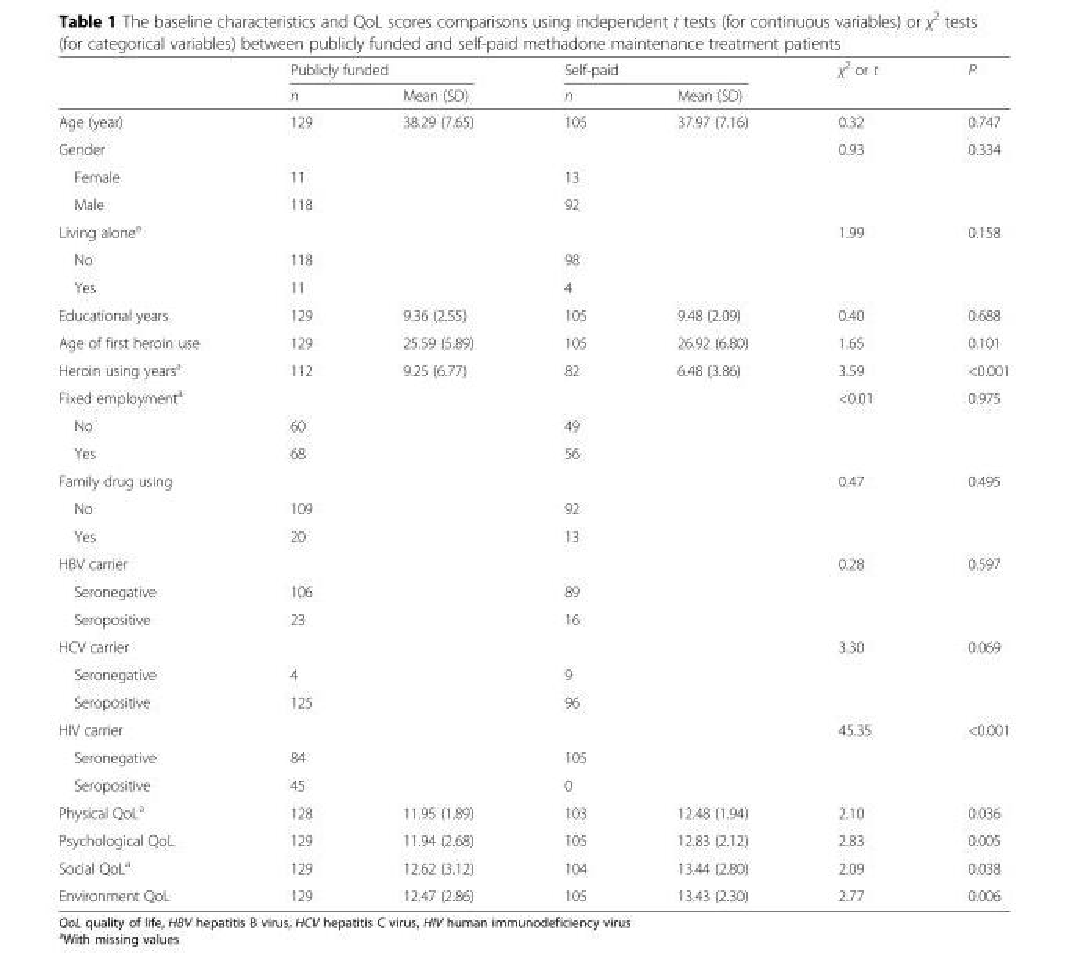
<table><thead><tr><td rowspan="2"></td><td colspan="2">Publicly funded</td><td colspan="2">Self-paid</td><td rowspan="2">χ<sup>2</sup> or t</td><td rowspan="2">P</td></tr><tr><td>n</td><td>Mean (SD)</td><td>n</td><td>Mean (SD)</td></tr></thead><tbody><tr><td>Age (year)</td><td>129</td><td>38.29 (7.65)</td><td>105</td><td>37.97 (7.16)</td><td>0.32</td><td>0.747</td></tr><tr><td>Gender</td><td></td><td></td><td></td><td></td><td>0.93</td><td>0.334</td></tr><tr><td>Female</td><td>11</td><td></td><td>13</td><td></td><td></td><td></td></tr><tr><td>Male</td><td>118</td><td></td><td>92</td><td></td><td></td><td></td></tr><tr><td>Living alone<sup>a</sup></td><td></td><td></td><td></td><td></td><td>1.99</td><td>0.158</td></tr><tr><td>No</td><td>118</td><td></td><td>98</td><td></td><td></td><td></td></tr><tr><td>Yes</td><td>11</td><td></td><td>4</td><td></td><td></td><td></td></tr><tr><td>Educational years</td><td>129</td><td>9.36 (2.55)</td><td>105</td><td>9.48 (2.09)</td><td>0.40</td><td>0.688</td></tr><tr><td>Age of first heroin use</td><td>129</td><td>25.59 (5.89)</td><td>105</td><td>26.92 (6.80)</td><td>1.65</td><td>0.101</td></tr><tr><td>Heroin using years<sup>a</sup></td><td>112</td><td>9.25 (6.77)</td><td>82</td><td>6.48 (3.86)</td><td>3.59</td><td>&lt;0.001</td></tr><tr><td>Fixed employment<sup>a</sup></td><td></td><td></td><td></td><td></td><td>&lt;0.01</td><td>0.975</td></tr><tr><td>No</td><td>60</td><td></td><td>49</td><td></td><td></td><td></td></tr><tr><td>Yes</td><td>68</td><td></td><td>56</td><td></td><td></td><td></td></tr><tr><td>Family drug using</td><td></td><td></td><td></td><td></td><td>0.47</td><td>0.495</td></tr><tr><td>No</td><td>109</td><td></td><td>92</td><td></td><td></td><td></td></tr><tr><td>Yes</td><td>20</td><td></td><td>13</td><td></td><td></td><td></td></tr><tr><td>HBV carrier</td><td></td><td></td><td></td><td></td><td>0.28</td><td>0.597</td></tr><tr><td>Seronegative</td><td>106</td><td></td><td>89</td><td></td><td></td><td></td></tr><tr><td>Seropositive</td><td>23</td><td></td><td>16</td><td></td><td></td><td></td></tr><tr><td>HCV carrier</td><td></td><td></td><td></td><td></td><td>3.30</td><td>0.069</td></tr><tr><td>Seronegative</td><td>4</td><td></td><td>9</td><td></td><td></td><td></td></tr><tr><td>Seropositive</td><td>125</td><td></td><td>96</td><td></td><td></td><td></td></tr><tr><td>HIV carrier</td><td></td><td></td><td></td><td></td><td>45.35</td><td>&lt;0.001</td></tr><tr><td>Seronegative</td><td>84</td><td></td><td>105</td><td></td><td></td><td></td></tr><tr><td>Seropositive</td><td>45</td><td></td><td>0</td><td></td><td></td><td></td></tr><tr><td>Physical QoL<sup>a</sup></td><td>128</td><td>11.95 (1.89)</td><td>103</td><td>12.48 (1.94)</td><td>2.10</td><td>0.036</td></tr><tr><td>Psychological QoL</td><td>129</td><td>11.94 (2.68)</td><td>105</td><td>12.83 (2.12)</td><td>2.83</td><td>0.005</td></tr><tr><td>Social QoL<sup>a</sup></td><td>129</td><td>12.62 (3.12)</td><td>104</td><td>13.44 (2.80)</td><td>2.09</td><td>0.038</td></tr><tr><td>Environment QoL</td><td>129</td><td>12.47 (2.86)</td><td>105</td><td>13.43 (2.30)</td><td>2.77</td><td>0.006</td></tr></tbody></table>